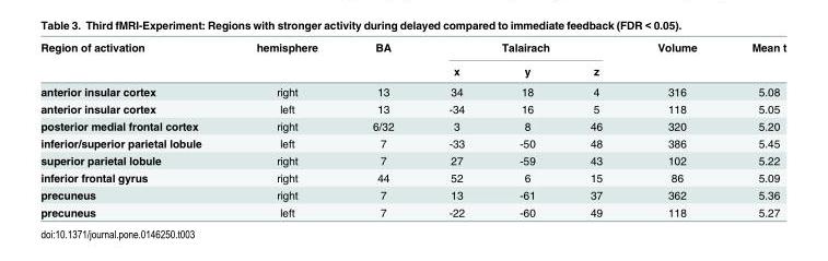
<table><thead><tr><td rowspan="2">Region of activation</td><td rowspan="2">hemisphere</td><td rowspan="2">BA</td><td colspan="3">Talairach</td><td rowspan="2">Volume</td><td rowspan="2">Mean t</td></tr><tr><td>x</td><td>y</td><td>z</td></tr></thead><tbody><tr><td>anterior insular cortex</td><td>right</td><td>13</td><td>34</td><td>18</td><td>4</td><td>316</td><td>5.08</td></tr><tr><td>anterior insular cortex</td><td>left</td><td>13</td><td>-34</td><td>16</td><td>5</td><td>118</td><td>5.05</td></tr><tr><td>posterior medial frontal cortex</td><td>right</td><td>6/32</td><td>3</td><td>8</td><td>46</td><td>320</td><td>5.20</td></tr><tr><td>inferior/superior parietal lobule</td><td>left</td><td>7</td><td>-33</td><td>-50</td><td>48</td><td>386</td><td>5.45</td></tr><tr><td>superior parietal lobule</td><td>right</td><td>7</td><td>27</td><td>-59</td><td>43</td><td>102</td><td>5.22</td></tr><tr><td>inferior frontal gyrus</td><td>right</td><td>44</td><td>52</td><td>6</td><td>15</td><td>86</td><td>5.09</td></tr><tr><td>precuneus</td><td>right</td><td>7</td><td>13</td><td>-61</td><td>37</td><td>362</td><td>5.36</td></tr><tr><td>precuneus</td><td>left</td><td>7</td><td>-22</td><td>-60</td><td>49</td><td>118</td><td>5.27</td></tr></tbody></table>